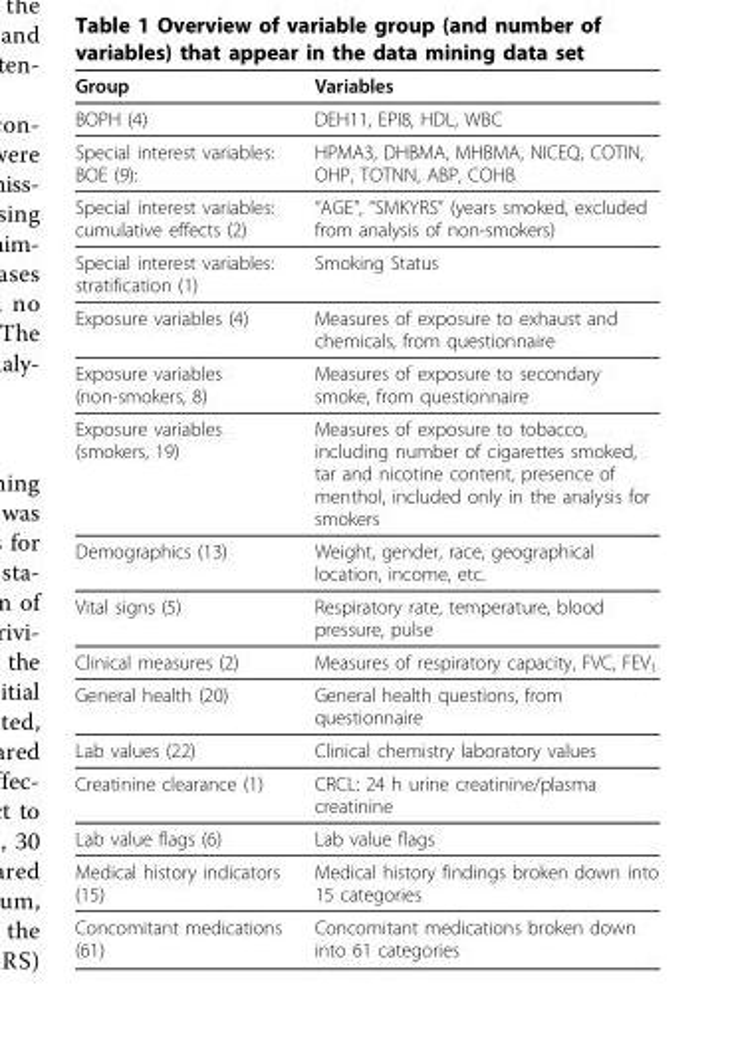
<table><thead><tr><td>Group</td><td>Variables</td></tr></thead><tbody><tr><td>BOPH (4)</td><td>DEH11, EPI8, HDL, WBC</td></tr><tr><td>Special interest variables: BOE (9):</td><td>HPMA3, DHBMA, MHBMA, NICEQ, COTIN, OHP, TOTNN, ABP, COHB</td></tr><tr><td>Special interest variables: cumulative effects (2)</td><td>“AGE”, “SMKYRS” (years smoked, excluded from analysis of non-smokers)</td></tr><tr><td>Special interest variables: stratification (1)</td><td>Smoking Status</td></tr><tr><td>Exposure variables (4)</td><td>Measures of exposure to exhaust and chemicals, from questionnaire</td></tr><tr><td>Exposure variables (non-smokers, 8)</td><td>Measures of exposure to secondary smoke, from questionnaire</td></tr><tr><td>Exposure variables (smokers, 19)</td><td>Measures of exposure to tobacco, including number of cigarettes smoked, tar and nicotine content, presence of menthol, included only in the analysis for smokers</td></tr><tr><td>Demographics (13)</td><td>Weight, gender, race, geographical location, income, etc.</td></tr><tr><td>Vital signs (5)</td><td>Respiratory rate, temperature, blood pressure, pulse</td></tr><tr><td>Clinical measures (2)</td><td>Measures of respiratory capacity, FVC, FEV1</td></tr><tr><td>General health (20)</td><td>General health questions, from questionnaire</td></tr><tr><td>Lab values (22)</td><td>Clinical chemistry laboratory values</td></tr><tr><td>Creatinine clearance (1)</td><td>CRCL: 24 h urine creatinine/plasma creatinine</td></tr><tr><td>Lab value flags (6)</td><td>Lab value flags</td></tr><tr><td>Medical history indicators (15)</td><td>Medical history findings broken down into 15 categories</td></tr><tr><td>Concomitant medications (61)</td><td>Concomitant medications broken down into 61 categories</td></tr></tbody></table>